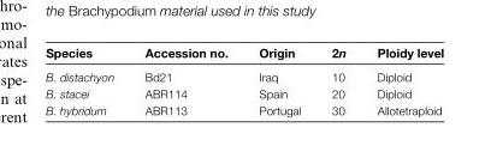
<table><thead><tr><td>Species</td><td>Accession no.</td><td>Origin</td><td>2n</td><td>Ploidy level</td></tr></thead><tbody><tr><td>B. distachyon</td><td>Bd21</td><td>Iraq</td><td>10</td><td>Diploid</td></tr><tr><td>B. stacei</td><td>ABR114</td><td>Spain</td><td>20</td><td>Diploid</td></tr><tr><td>B. hybridum</td><td>ABR113</td><td>Portugal</td><td>30</td><td>Allotetraploid</td></tr></tbody></table>